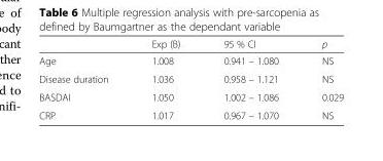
<table><thead><tr><td></td><td>Exp (B)</td><td>95 % CI</td><td>p</td></tr></thead><tbody><tr><td>Age</td><td>1.008</td><td>0.941 – 1.080</td><td>NS</td></tr><tr><td>Disease duration</td><td>1.036</td><td>0.958 – 1.121</td><td>NS</td></tr><tr><td>BASDAI</td><td>1.050</td><td>1.002 – 1.086</td><td>0.029</td></tr><tr><td>CRP</td><td>1.017</td><td>0.967 – 1.070</td><td>NS</td></tr></tbody></table>